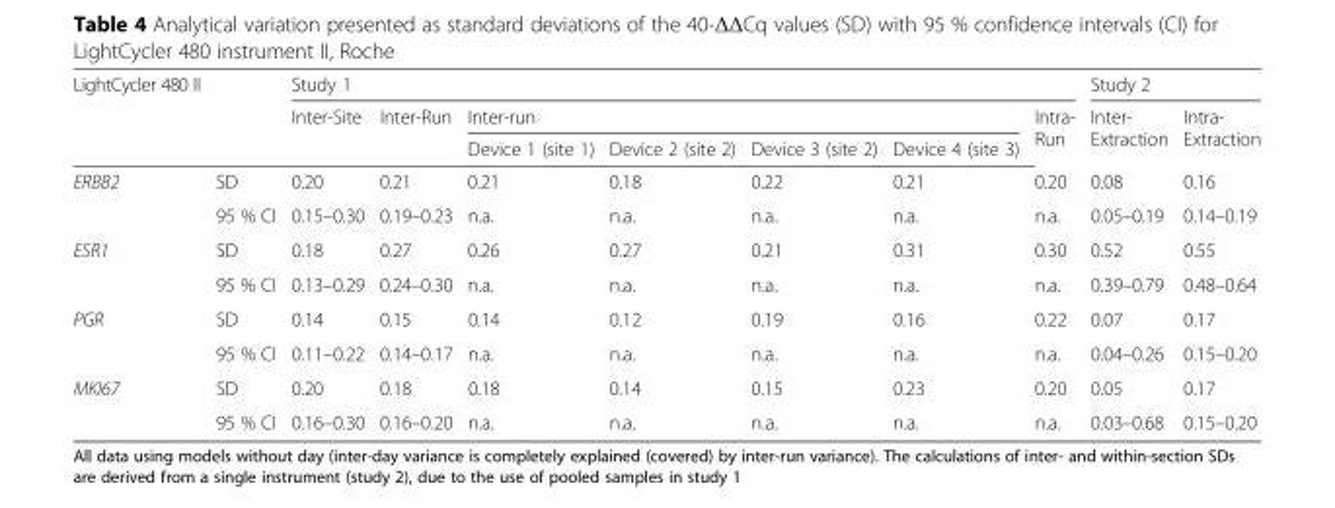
<table><thead><tr><td rowspan="3">LightCycler 480 II</td><td rowspan="3"></td><td colspan="7">Study 1</td><td colspan="2">Study 2</td></tr><tr><td rowspan="2">Inter-Site</td><td rowspan="2">Inter-Run</td><td colspan="4">Inter-run</td><td rowspan="2">Intra- Run</td><td rowspan="2">Inter- Extraction</td><td rowspan="2">Intra- Extraction</td></tr><tr><td>Device 1 (site 1)</td><td>Device 2 (site 2)</td><td>Device 3 (site 2)</td><td>Device 4 (site 3)</td></tr></thead><tbody><tr><td rowspan="2">ERBB2</td><td>SD</td><td>0.20</td><td>0.21</td><td>0.21</td><td>0.18</td><td>0.22</td><td>0.21</td><td>0.20</td><td>0.08</td><td>0.16</td></tr><tr><td>95 % CI</td><td>0.15–0.30</td><td>0.19–0.23</td><td>n.a.</td><td>n.a.</td><td>n.a.</td><td>n.a.</td><td>n.a.</td><td>0.05–0.19</td><td>0.14–0.19</td></tr><tr><td rowspan="2">ESR1</td><td>SD</td><td>0.18</td><td>0.27</td><td>0.26</td><td>0.27</td><td>0.21</td><td>0.31</td><td>0.30</td><td>0.52</td><td>0.55</td></tr><tr><td>95 % CI</td><td>0.13–0.29</td><td>0.24–0.30</td><td>n.a.</td><td>n.a.</td><td>n.a.</td><td>n.a.</td><td>n.a.</td><td>0.39–0.79</td><td>0.48–0.64</td></tr><tr><td rowspan="2">PGR</td><td>SD</td><td>0.14</td><td>0.15</td><td>0.14</td><td>0.12</td><td>0.19</td><td>0.16</td><td>0.22</td><td>0.07</td><td>0.17</td></tr><tr><td>95 % CI</td><td>0.11–0.22</td><td>0.14–0.17</td><td>n.a.</td><td>n.a.</td><td>n.a.</td><td>n.a.</td><td>n.a.</td><td>0.04–0.26</td><td>0.15–0.20</td></tr><tr><td rowspan="2">MKI67</td><td>SD</td><td>0.20</td><td>0.18</td><td>0.18</td><td>0.14</td><td>0.15</td><td>0.23</td><td>0.20</td><td>0.05</td><td>0.17</td></tr><tr><td>95 % CI</td><td>0.16–0.30</td><td>0.16–0.20</td><td>n.a.</td><td>n.a.</td><td>n.a.</td><td>n.a.</td><td>n.a.</td><td>0.03–0.68</td><td>0.15–0.20</td></tr></tbody></table>